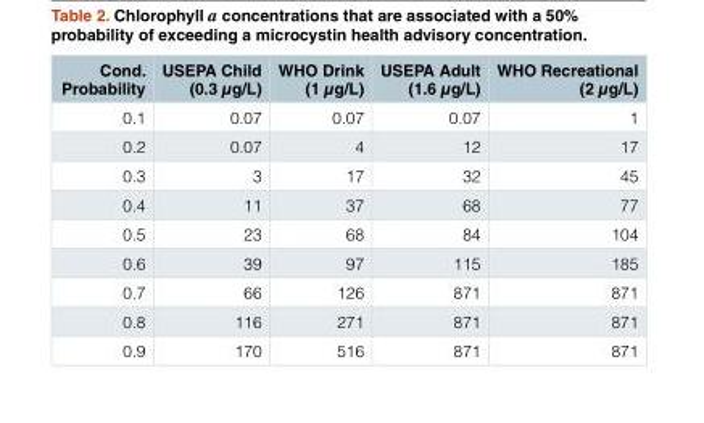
<table><thead><tr><td>Cond. Probability</td><td>USEPA Child (0.3 µg/L)</td><td>WHO Drink (1 µg/L)</td><td>USEPA Adult (1.6 µg/L)</td><td>WHO Recreational (2 µg/L)</td></tr></thead><tbody><tr><td>0.1</td><td>0.07</td><td>0.07</td><td>0.07</td><td>1</td></tr><tr><td>0.2</td><td>0.07</td><td>4</td><td>12</td><td>17</td></tr><tr><td>0.3</td><td>3</td><td>17</td><td>32</td><td>45</td></tr><tr><td>0.4</td><td>11</td><td>37</td><td>68</td><td>77</td></tr><tr><td>0.5</td><td>23</td><td>68</td><td>84</td><td>104</td></tr><tr><td>0.6</td><td>39</td><td>97</td><td>115</td><td>185</td></tr><tr><td>0.7</td><td>66</td><td>126</td><td>871</td><td>871</td></tr><tr><td>0.8</td><td>116</td><td>271</td><td>871</td><td>871</td></tr><tr><td>0.9</td><td>170</td><td>516</td><td>871</td><td>871</td></tr></tbody></table>